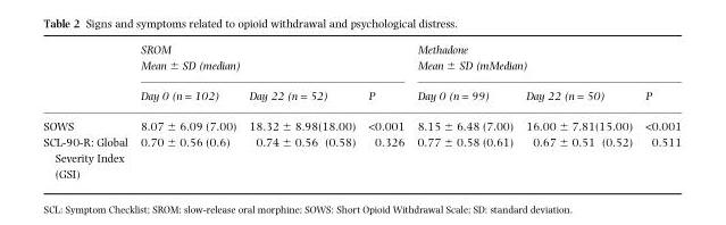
<table><thead><tr><td rowspan="2"></td><td colspan="3">SROM Mean ± SD (median)</td><td colspan="3">Methadone Mean ± SD (mMedian)</td></tr><tr><td>Day 0 (n = 102)</td><td>Day 22 (n = 52)</td><td>P</td><td>Day 0 (n = 99)</td><td>Day 22 (n = 50)</td><td>P</td></tr></thead><tbody><tr><td>SOWS</td><td>8.07 ± 6.09 (7.00)</td><td>18.32 ± 8.98(18.00)</td><td>&lt;0.001</td><td>8.15 ± 6.48 (7.00)</td><td>16.00 ± 7.81(15.00)</td><td>&lt;0.001</td></tr><tr><td>SCL-90-R: Global Severity Index (GSI)</td><td>0.70 ± 0.56 (0.6)</td><td>0.74 ± 0.56 (0.58)</td><td>0.326</td><td>0.77 ± 0.58 (0.61)</td><td>0.67 ± 0.51 (0.52)</td><td>0.511</td></tr></tbody></table>